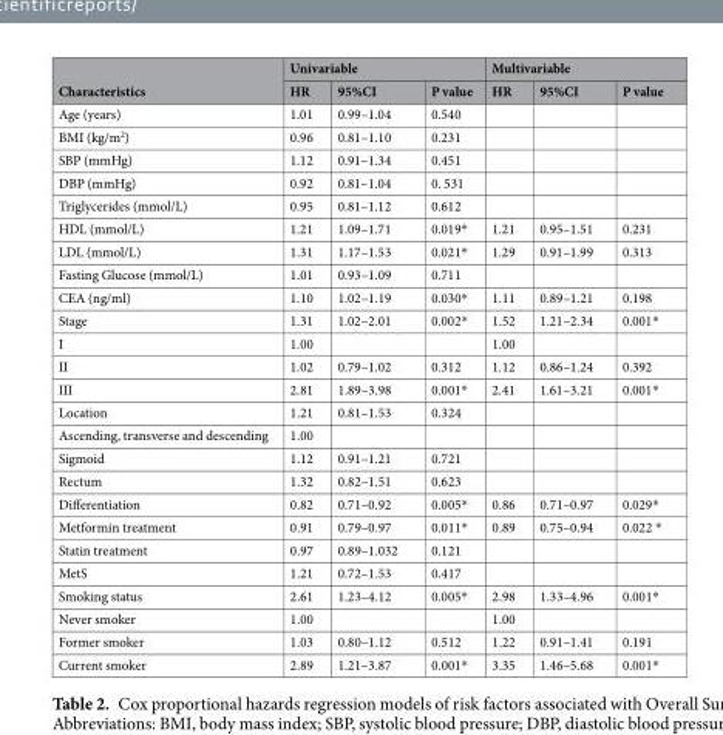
<table><thead><tr><td rowspan="2">Characteristics</td><td colspan="3">Univariable</td><td colspan="3">Multivariable</td></tr><tr><td>HR</td><td>95%CI</td><td>P value</td><td>HR</td><td>95%CI</td><td>P value</td></tr></thead><tbody><tr><td>Age (years)</td><td>1.01</td><td>0.99–1.04</td><td>0.540</td><td></td><td></td><td></td></tr><tr><td>BMI (kg/m<sup>2</sup>)</td><td>0.96</td><td>0.81–1.10</td><td>0.231</td><td></td><td></td><td></td></tr><tr><td>SBP (mmHg)</td><td>1.12</td><td>0.91–1.34</td><td>0.451</td><td></td><td></td><td></td></tr><tr><td>DBP (mmHg)</td><td>0.92</td><td>0.81–1.04</td><td>0. 531</td><td></td><td></td><td></td></tr><tr><td>Triglycerides (mmol/L)</td><td>0.95</td><td>0.81–1.12</td><td>0.612</td><td></td><td></td><td></td></tr><tr><td>HDL (mmol/L)</td><td>1.21</td><td>1.09–1.71</td><td>0.019*</td><td>1.21</td><td>0.95–1.51</td><td>0.231</td></tr><tr><td>LDL (mmol/L)</td><td>1.31</td><td>1.17–1.53</td><td>0.021*</td><td>1.29</td><td>0.91–1.99</td><td>0.313</td></tr><tr><td>Fasting Glucose (mmol/L)</td><td>1.01</td><td>0.93–1.09</td><td>0.711</td><td></td><td></td><td></td></tr><tr><td>CEA (ng/ml)</td><td>1.10</td><td>1.02–1.19</td><td>0.030*</td><td>1.11</td><td>0.89–1.21</td><td>0.198</td></tr><tr><td>Stage</td><td>1.31</td><td>1.02–2.01</td><td>0.002*</td><td>1.52</td><td>1.21–2.34</td><td>0.001*</td></tr><tr><td>I</td><td>1.00</td><td></td><td></td><td>1.00</td><td></td><td></td></tr><tr><td>II</td><td>1.02</td><td>0.79–1.02</td><td>0.312</td><td>1.12</td><td>0.86–1.24</td><td>0.392</td></tr><tr><td>III</td><td>2.81</td><td>1.89–3.98</td><td>0.001*</td><td>2.41</td><td>1.61–3.21</td><td>0.001*</td></tr><tr><td>Location</td><td>1.21</td><td>0.81–1.53</td><td>0.324</td><td></td><td></td><td></td></tr><tr><td>Ascending, transverse and descending</td><td>1.00</td><td></td><td></td><td></td><td></td><td></td></tr><tr><td>Sigmoid</td><td>1.12</td><td>0.91–1.21</td><td>0.721</td><td></td><td></td><td></td></tr><tr><td>Rectum</td><td>1.32</td><td>0.82–1.51</td><td>0.623</td><td></td><td></td><td></td></tr><tr><td>Differentiation</td><td>0.82</td><td>0.71–0.92</td><td>0.005*</td><td>0.86</td><td>0.71–0.97</td><td>0.029*</td></tr><tr><td>Metformin treatment</td><td>0.91</td><td>0.79–0.97</td><td>0.011*</td><td>0.89</td><td>0.75–0.94</td><td>0.022 *</td></tr><tr><td>Statin treatment</td><td>0.97</td><td>0.89–1.032</td><td>0.121</td><td></td><td></td><td></td></tr><tr><td>MetS</td><td>1.21</td><td>0.72–1.53</td><td>0.417</td><td></td><td></td><td></td></tr><tr><td>Smoking status</td><td>2.61</td><td>1.23–4.12</td><td>0.005*</td><td>2.98</td><td>1.33–4.96</td><td>0.001*</td></tr><tr><td>Never smoker</td><td>1.00</td><td></td><td></td><td>1.00</td><td></td><td></td></tr><tr><td>Former smoker</td><td>1.03</td><td>0.80–1.12</td><td>0.512</td><td>1.22</td><td>0.91–1.41</td><td>0.191</td></tr><tr><td>Current smoker</td><td>2.89</td><td>1.21–3.87</td><td>0.001*</td><td>3.35</td><td>1.46–5.68</td><td>0.001*</td></tr></tbody></table>